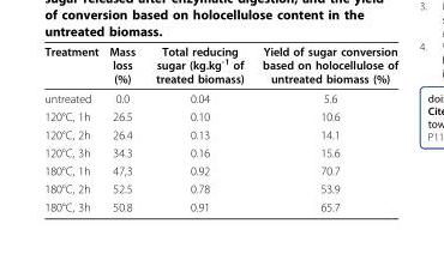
<table><thead><tr><td>Treatment</td><td>Mass loss (%)</td><td>Total reducing sugar (kg.kg<sup>-1</sup> of treated biomass)</td><td>Yield of sugar conversion based on holocellulose of untreated biomass (%)</td></tr></thead><tbody><tr><td>untreated</td><td>0.0</td><td>0.04</td><td>5.6</td></tr><tr><td>120°C, 1h</td><td>26.5</td><td>0.10</td><td>10.6</td></tr><tr><td>120°C, 2h</td><td>26.4</td><td>0.13</td><td>14.1</td></tr><tr><td>120°C, 3h</td><td>34.3</td><td>0.16</td><td>15.6</td></tr><tr><td>180°C, 1h</td><td>47,3</td><td>0.92</td><td>70.7</td></tr><tr><td>180°C, 2h</td><td>52.5</td><td>0.78</td><td>53.9</td></tr><tr><td>180°C, 3h</td><td>50.8</td><td>0.91</td><td>65.7</td></tr></tbody></table>